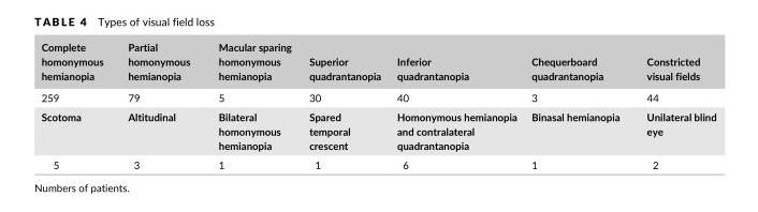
<table><thead><tr><td>Complete homonymous hemianopia</td><td>Partial homonymous hemianopia</td><td>Macular sparing homonymous hemianopia</td><td>Superior quadrantanopia</td><td>Inferior quadrantanopia</td><td>Chequerboard quadrantanopia</td><td>Constricted visual fields</td></tr></thead><tbody><tr><td>259</td><td>79</td><td>5</td><td>30</td><td>40</td><td>3</td><td>44</td></tr><tr><td>Scotoma</td><td>Altitudinal</td><td>Bilateral homonymous hemianopia</td><td>Spared temporal crescent</td><td>Homonymous hemianopia and contralateral quadrantanopia</td><td>Binasal hemianopia</td><td>Unilateral blind eye</td></tr><tr><td>5</td><td>3</td><td>1</td><td>1</td><td>6</td><td>1</td><td>2</td></tr></tbody></table>